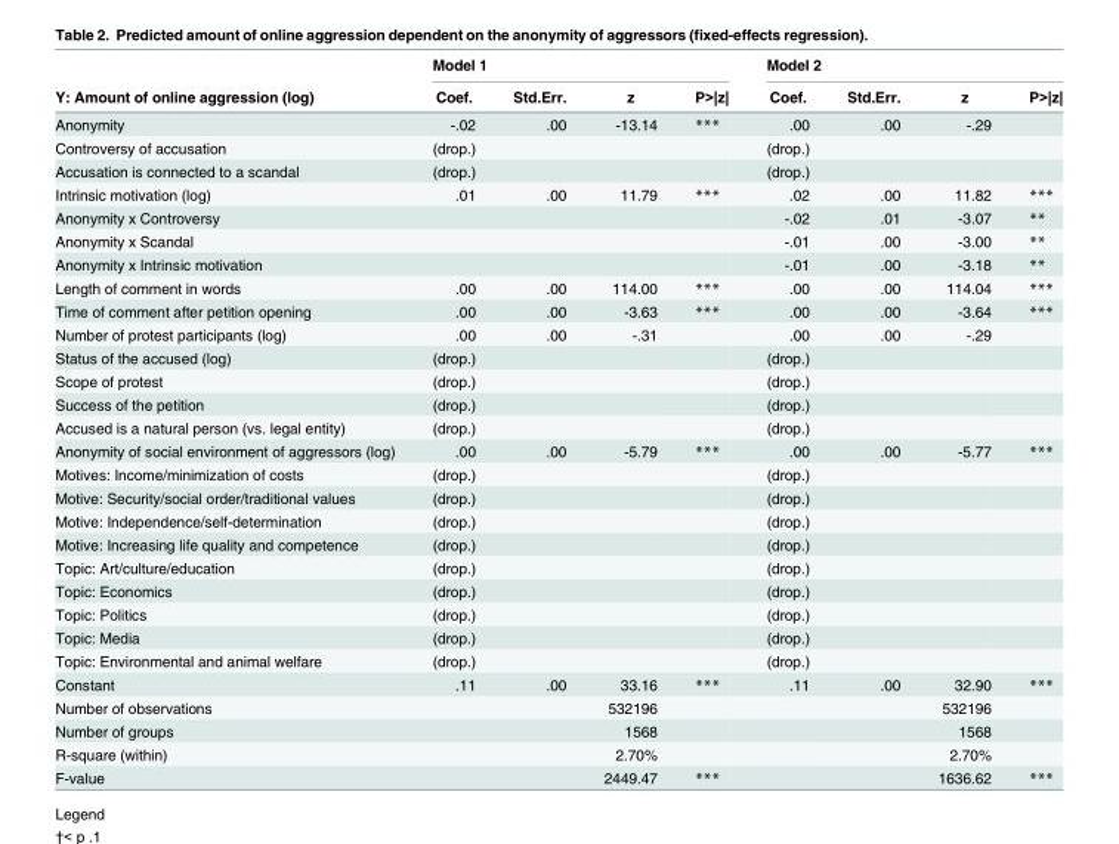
<table><thead><tr><td rowspan="2">Y: Amount of online aggression (log)</td><td colspan="4">Model 1</td><td colspan="4">Model 2</td></tr><tr><td>Coef.</td><td>Std.Err.</td><td>z</td><td>P&gt;|z|</td><td>Coef.</td><td>Std.Err.</td><td>z</td><td>P&gt;|z|</td></tr></thead><tbody><tr><td>Anonymity</td><td>-.02</td><td>.00</td><td>-13.14</td><td>***</td><td>.00</td><td>.00</td><td>-.29</td><td></td></tr><tr><td>Controversy of accusation</td><td>(drop.)</td><td></td><td></td><td></td><td>(drop.)</td><td></td><td></td><td></td></tr><tr><td>Accusation is connected to a scandal</td><td>(drop.)</td><td></td><td></td><td></td><td>(drop.)</td><td></td><td></td><td></td></tr><tr><td>Intrinsic motivation (log)</td><td>.01</td><td>.00</td><td>11.79</td><td>***</td><td>.02</td><td>.00</td><td>11.82</td><td>***</td></tr><tr><td>Anonymity x Controversy</td><td></td><td></td><td></td><td></td><td>-.02</td><td>.01</td><td>-3.07</td><td>**</td></tr><tr><td>Anonymity x Scandal</td><td></td><td></td><td></td><td></td><td>-.01</td><td>.00</td><td>-3.00</td><td>**</td></tr><tr><td>Anonymity x Intrinsic motivation</td><td></td><td></td><td></td><td></td><td>-.01</td><td>.00</td><td>-3.18</td><td>**</td></tr><tr><td>Length of comment in words</td><td>.00</td><td>.00</td><td>114.00</td><td>***</td><td>.00</td><td>.00</td><td>114.04</td><td>***</td></tr><tr><td>Time of comment after petition opening</td><td>.00</td><td>.00</td><td>-3.63</td><td>***</td><td>.00</td><td>.00</td><td>-3.64</td><td>***</td></tr><tr><td>Number of protest participants (log)</td><td>.00</td><td>.00</td><td>-.31</td><td></td><td>.00</td><td>.00</td><td>-.29</td><td></td></tr><tr><td>Status of the accused (log)</td><td>(drop.)</td><td></td><td></td><td></td><td>(drop.)</td><td></td><td></td><td></td></tr><tr><td>Scope of protest</td><td>(drop.)</td><td></td><td></td><td></td><td>(drop.)</td><td></td><td></td><td></td></tr><tr><td>Success of the petition</td><td>(drop.)</td><td></td><td></td><td></td><td>(drop.)</td><td></td><td></td><td></td></tr><tr><td>Accused is a natural person (vs. legal entity)</td><td>(drop.)</td><td></td><td></td><td></td><td>(drop.)</td><td></td><td></td><td></td></tr><tr><td>Anonymity of social environment of aggressors (log)</td><td>.00</td><td>.00</td><td>-5.79</td><td>***</td><td>.00</td><td>.00</td><td>-5.77</td><td>***</td></tr><tr><td>Motives: Income/minimization of costs</td><td>(drop.)</td><td></td><td></td><td></td><td>(drop.)</td><td></td><td></td><td></td></tr><tr><td>Motive: Security/social order/traditional values</td><td>(drop.)</td><td></td><td></td><td></td><td>(drop.)</td><td></td><td></td><td></td></tr><tr><td>Motive: Independence/self-determination</td><td>(drop.)</td><td></td><td></td><td></td><td>(drop.)</td><td></td><td></td><td></td></tr><tr><td>Motive: Increasing life quality and competence</td><td>(drop.)</td><td></td><td></td><td></td><td>(drop.)</td><td></td><td></td><td></td></tr><tr><td>Topic: Art/culture/education</td><td>(drop.)</td><td></td><td></td><td></td><td>(drop.)</td><td></td><td></td><td></td></tr><tr><td>Topic: Economics</td><td>(drop.)</td><td></td><td></td><td></td><td>(drop.)</td><td></td><td></td><td></td></tr><tr><td>Topic: Politics</td><td>(drop.)</td><td></td><td></td><td></td><td>(drop.)</td><td></td><td></td><td></td></tr><tr><td>Topic: Media</td><td>(drop.)</td><td></td><td></td><td></td><td>(drop.)</td><td></td><td></td><td></td></tr><tr><td>Topic: Environmental and animal welfare</td><td>(drop.)</td><td></td><td></td><td></td><td>(drop.)</td><td></td><td></td><td></td></tr><tr><td>Constant</td><td>.11</td><td>.00</td><td>33.16</td><td>***</td><td>.11</td><td>.00</td><td>32.90</td><td>***</td></tr><tr><td>Number of observations</td><td></td><td></td><td>532196</td><td></td><td></td><td></td><td>532196</td><td></td></tr><tr><td>Number of groups</td><td></td><td></td><td>1568</td><td></td><td></td><td></td><td>1568</td><td></td></tr><tr><td>R-square (within)</td><td></td><td></td><td>2.70%</td><td></td><td></td><td></td><td>2.70%</td><td></td></tr><tr><td>F-value</td><td></td><td></td><td>2449.47</td><td>***</td><td></td><td></td><td>1636.62</td><td>***</td></tr></tbody></table>